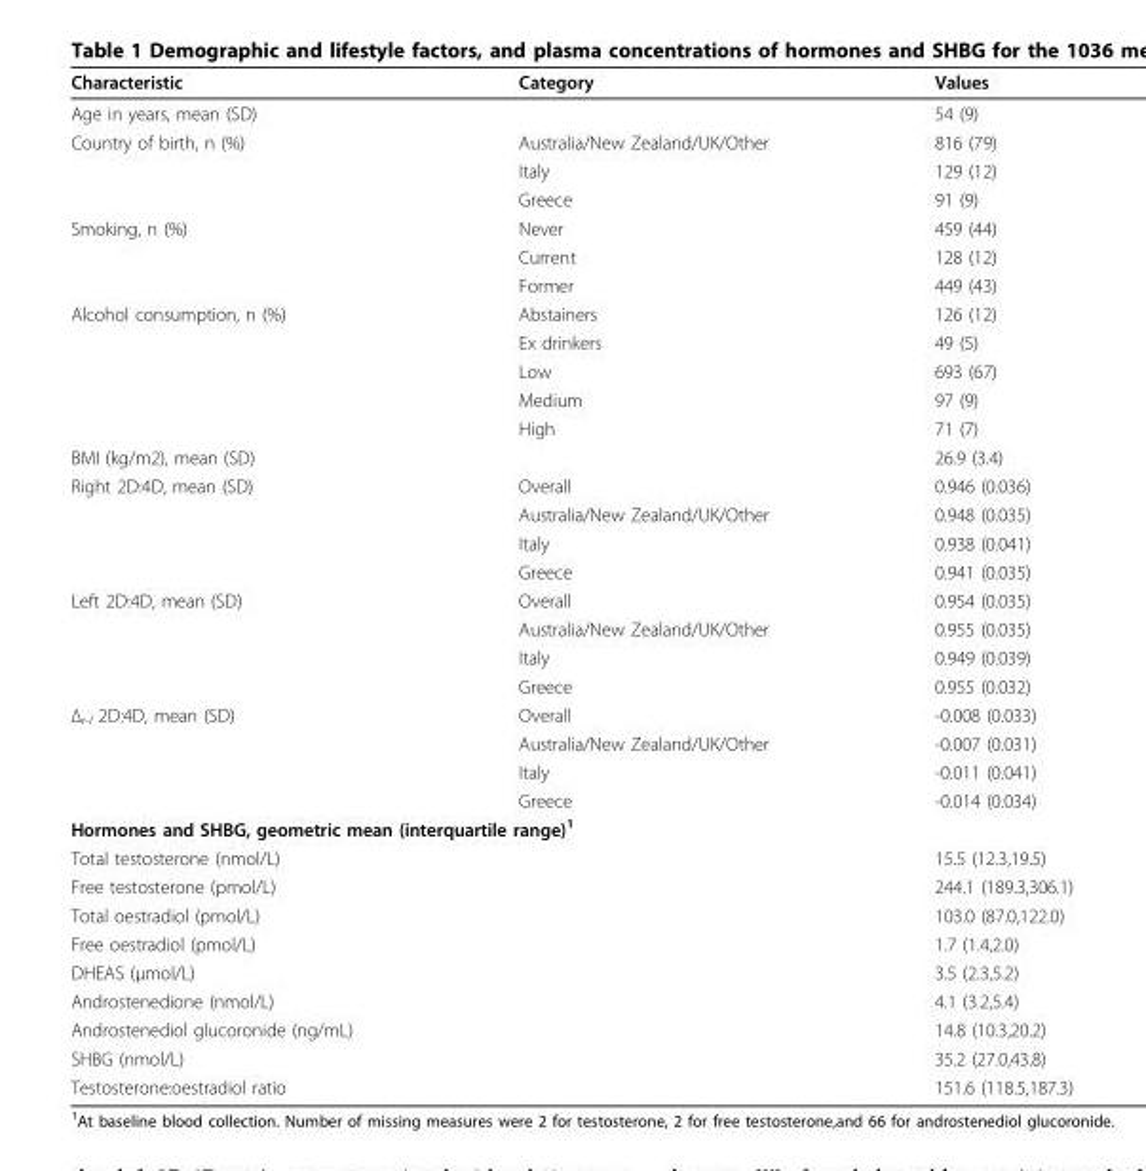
<table><thead><tr><td>Characteristic</td><td>Category</td><td>Values</td></tr></thead><tbody><tr><td>Age in years, mean (SD)</td><td></td><td>54 (9)</td></tr><tr><td rowspan="3">Country of birth, n (%)</td><td>Australia/New Zealand/UK/Other</td><td>816 (79)</td></tr><tr><td>Italy</td><td>129 (12)</td></tr><tr><td>Greece</td><td>91 (9)</td></tr><tr><td rowspan="3">Smoking, n (%)</td><td>Never</td><td>459 (44)</td></tr><tr><td>Current</td><td>128 (12)</td></tr><tr><td>Former</td><td>449 (43)</td></tr><tr><td rowspan="5">Alcohol consumption, n (%)</td><td>Abstainers</td><td>126 (12)</td></tr><tr><td>Ex drinkers</td><td>49 (5)</td></tr><tr><td>Low</td><td>693 (67)</td></tr><tr><td>Medium</td><td>97 (9)</td></tr><tr><td>High</td><td>71 (7)</td></tr><tr><td>BMI (kg/m2), mean (SD)</td><td></td><td>26.9 (3.4)</td></tr><tr><td rowspan="4">Right 2D:4D, mean (SD)</td><td>Overall</td><td>0.946 (0.036)</td></tr><tr><td>Australia/New Zealand/UK/Other</td><td>0.948 (0.035)</td></tr><tr><td>Italy</td><td>0.938 (0.041)</td></tr><tr><td>Greece</td><td>0.941 (0.035)</td></tr><tr><td rowspan="4">Left 2D:4D, mean (SD)</td><td>Overall</td><td>0.954 (0.035)</td></tr><tr><td>Australia/New Zealand/UK/Other</td><td>0.955 (0.035)</td></tr><tr><td>Italy</td><td>0.949 (0.039)</td></tr><tr><td>Greece</td><td>0.955 (0.032)</td></tr><tr><td rowspan="4">Δ<sub>r-l</sub> 2D:4D, mean (SD)</td><td>Overall</td><td>-0.008 (0.033)</td></tr><tr><td>Australia/New Zealand/UK/Other</td><td>-0.007 (0.031)</td></tr><tr><td>Italy</td><td>-0.011 (0.041)</td></tr><tr><td>Greece</td><td>-0.014 (0.034)</td></tr><tr><td colspan="3">Hormones and SHBG, geometric mean (interquartile range)<sup>1</sup></td></tr><tr><td>Total testosterone (nmol/L)</td><td></td><td>15.5 (12.3,19.5)</td></tr><tr><td>Free testosterone (pmol/L)</td><td></td><td>244.1 (189.3,306.1)</td></tr><tr><td>Total oestradiol (pmol/L)</td><td></td><td>103.0 (87.0,122.0)</td></tr><tr><td>Free oestradiol (pmol/L)</td><td></td><td>1.7 (1.4,2.0)</td></tr><tr><td>DHEAS (μmol/L)</td><td></td><td>3.5 (2.3,5.2)</td></tr><tr><td>Androstenedione (nmol/L)</td><td></td><td>4.1 (3.2,5.4)</td></tr><tr><td>Androstenediol glucoronide (ng/mL)</td><td></td><td>14.8 (10.3,20.2)</td></tr><tr><td>SHBG (nmol/L)</td><td></td><td>35.2 (27.0,43.8)</td></tr><tr><td>Testosterone:oestradiol ratio</td><td></td><td>151.6 (118.5,187.3)</td></tr></tbody></table>